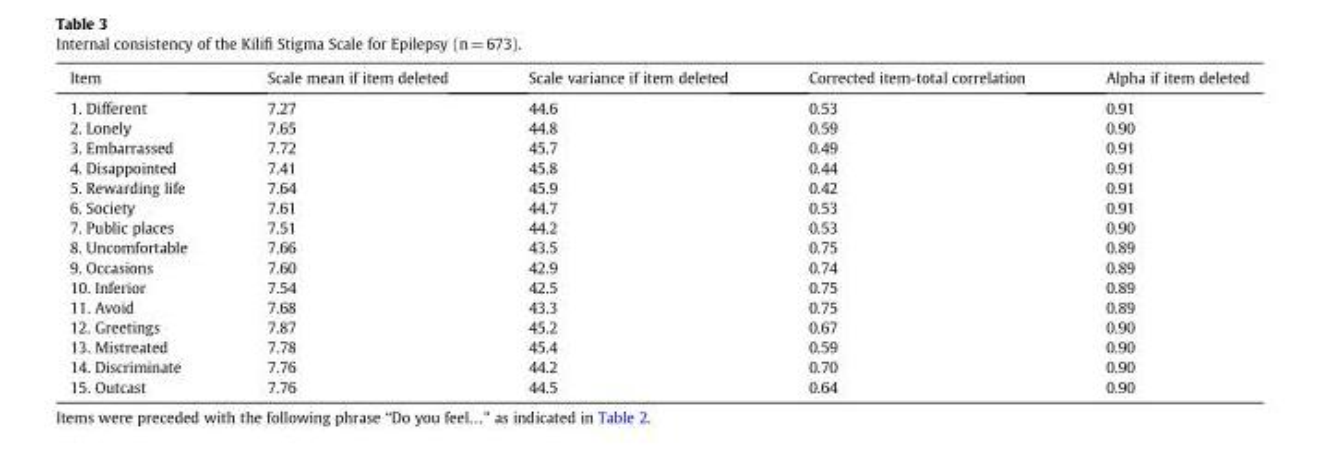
<table><thead><tr><td>Item</td><td>Scale mean if item deleted</td><td>Scale variance if item deleted</td><td>Corrected item-total correlation</td><td>Alpha if item deleted</td></tr></thead><tbody><tr><td>1. Different</td><td>7.27</td><td>44.6</td><td>0.53</td><td>0.91</td></tr><tr><td>2. Lonely</td><td>7.65</td><td>44.8</td><td>0.59</td><td>0.90</td></tr><tr><td>3. Embarrassed</td><td>7.72</td><td>45.7</td><td>0.49</td><td>0.91</td></tr><tr><td>4. Disappointed</td><td>7.41</td><td>45.8</td><td>0.44</td><td>0.91</td></tr><tr><td>5. Rewarding life</td><td>7.64</td><td>45.9</td><td>0.42</td><td>0.91</td></tr><tr><td>6. Society</td><td>7.61</td><td>44.7</td><td>0.53</td><td>0.91</td></tr><tr><td>7. Public places</td><td>7.51</td><td>44.2</td><td>0.53</td><td>0.90</td></tr><tr><td>8. Uncomfortable</td><td>7.66</td><td>43.5</td><td>0.75</td><td>0.89</td></tr><tr><td>9. Occasions</td><td>7.60</td><td>42.9</td><td>0.74</td><td>0.89</td></tr><tr><td>10. Inferior</td><td>7.54</td><td>42.5</td><td>0.75</td><td>0.89</td></tr><tr><td>11. Avoid</td><td>7.68</td><td>43.3</td><td>0.75</td><td>0.89</td></tr><tr><td>12. Greetings</td><td>7.87</td><td>45.2</td><td>0.67</td><td>0.90</td></tr><tr><td>13. Mistreated</td><td>7.78</td><td>45.4</td><td>0.59</td><td>0.90</td></tr><tr><td>14. Discriminate</td><td>7.76</td><td>44.2</td><td>0.70</td><td>0.90</td></tr><tr><td>15. Outcast</td><td>7.76</td><td>44.5</td><td>0.64</td><td>0.90</td></tr></tbody></table>